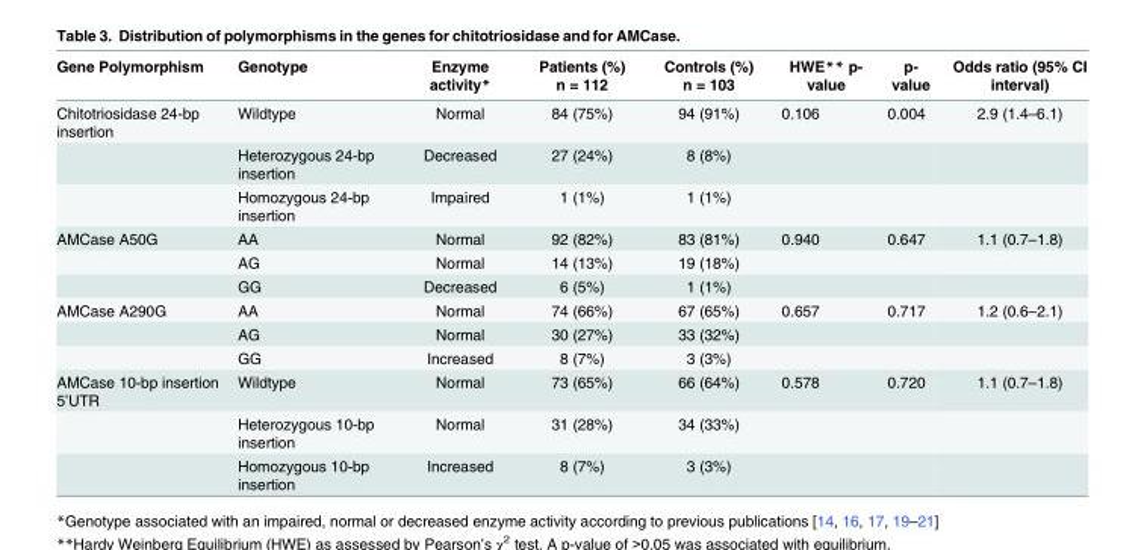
<table><thead><tr><td>Gene Polymorphism</td><td>Genotype</td><td>Enzyme activity*</td><td>Patients (%) n = 112</td><td>Controls (%) n = 103</td><td>HWE** p- value</td><td>p- value</td><td>Odds ratio (95% CI interval)</td></tr></thead><tbody><tr><td rowspan="3">Chitotriosidase 24-bp insertion</td><td>Wildtype</td><td>Normal</td><td>84 (75%)</td><td>94 (91%)</td><td>0.106</td><td>0.004</td><td>2.9 (1.4–6.1)</td></tr><tr><td>Heterozygous 24-bp insertion</td><td>Decreased</td><td>27 (24%)</td><td>8 (8%)</td><td></td><td></td><td></td></tr><tr><td>Homozygous 24-bp insertion</td><td>Impaired</td><td>1 (1%)</td><td>1 (1%)</td><td></td><td></td><td></td></tr><tr><td rowspan="3">AMCase A50G</td><td>AA</td><td>Normal</td><td>92 (82%)</td><td>83 (81%)</td><td>0.940</td><td>0.647</td><td>1.1 (0.7–1.8)</td></tr><tr><td>AG</td><td>Normal</td><td>14 (13%)</td><td>19 (18%)</td><td></td><td></td><td></td></tr><tr><td>GG</td><td>Decreased</td><td>6 (5%)</td><td>1 (1%)</td><td></td><td></td><td></td></tr><tr><td rowspan="3">AMCase A290G</td><td>AA</td><td>Normal</td><td>74 (66%)</td><td>67 (65%)</td><td>0.657</td><td>0.717</td><td>1.2 (0.6–2.1)</td></tr><tr><td>AG</td><td>Normal</td><td>30 (27%)</td><td>33 (32%)</td><td></td><td></td><td></td></tr><tr><td>GG</td><td>Increased</td><td>8 (7%)</td><td>3 (3%)</td><td></td><td></td><td></td></tr><tr><td rowspan="3">AMCase 10-bp insertion 5’UTR</td><td>Wildtype</td><td>Normal</td><td>73 (65%)</td><td>66 (64%)</td><td>0.578</td><td>0.720</td><td>1.1 (0.7–1.8)</td></tr><tr><td>Heterozygous 10-bp insertion</td><td>Normal</td><td>31 (28%)</td><td>34 (33%)</td><td></td><td></td><td></td></tr><tr><td>Homozygous 10-bp insertion</td><td>Increased</td><td>8 (7%)</td><td>3 (3%)</td><td></td><td></td><td></td></tr></tbody></table>